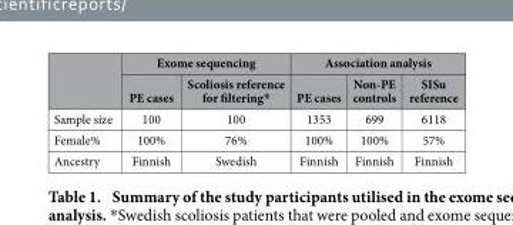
<table><thead><tr><td rowspan="2"></td><td colspan="2">Exome sequencing</td><td colspan="3">Association analysis</td></tr><tr><td>PE cases</td><td>Scoliosis reference for filtering*</td><td>PE cases</td><td>Non-PE controls</td><td>SISu reference</td></tr></thead><tbody><tr><td>Sample size</td><td>100</td><td>100</td><td>1353</td><td>699</td><td>6118</td></tr><tr><td>Female%</td><td>100%</td><td>76%</td><td>100%</td><td>100%</td><td>57%</td></tr><tr><td>Ancestry</td><td>Finnish</td><td>Swedish</td><td>Finnish</td><td>Finnish</td><td>Finnish</td></tr></tbody></table>